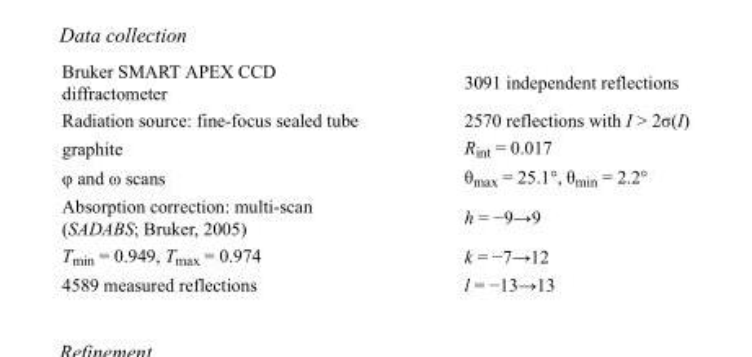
<table><tbody><tr><td>Bruker SMART APEX CCD diffractometer</td><td>3091 independent reflections</td></tr><tr><td>Radiation source: fine-focus sealed tube</td><td>2570 reflections with I &gt; 2σ(I)</td></tr><tr><td>graphite</td><td>R<sub>int</sub> = 0.017</td></tr><tr><td>φ and ω scans</td><td>θ<sub>max</sub> = 25.1°, θ<sub>min</sub> = 2.2°</td></tr><tr><td>Absorption correction: multi-scan (SADABS; Bruker, 2005)</td><td>h = −9→9</td></tr><tr><td>T<sub>min</sub> = 0.949, T<sub>max</sub> = 0.974</td><td>k = −7→12</td></tr><tr><td>4589 measured reflections</td><td>l = −13→13</td></tr></tbody></table>